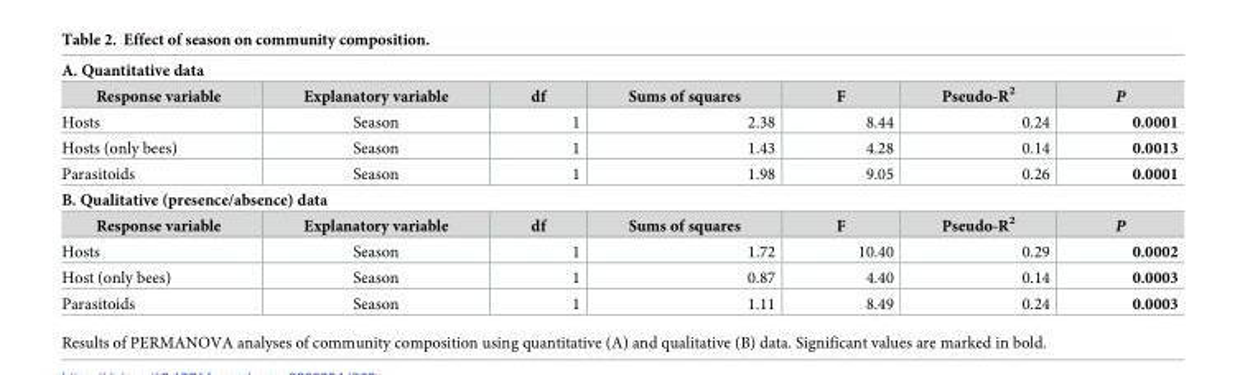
<table><tbody><tr><td colspan="7">A. Quantitative data</td></tr><tr><td>Response variable</td><td>Explanatory variable</td><td>df</td><td>Sums of squares</td><td>F</td><td>Pseudo-R<sup>2</sup></td><td>P</td></tr><tr><td>Hosts</td><td>Season</td><td>1</td><td>2.38</td><td>8.44</td><td>0.24</td><td>0.0001</td></tr><tr><td>Hosts (only bees)</td><td>Season</td><td>1</td><td>1.43</td><td>4.28</td><td>0.14</td><td>0.0013</td></tr><tr><td>Parasitoids</td><td>Season</td><td>1</td><td>1.98</td><td>9.05</td><td>0.26</td><td>0.0001</td></tr><tr><td colspan="7">B. Qualitative (presence/absence) data</td></tr><tr><td>Response variable</td><td>Explanatory variable</td><td>df</td><td>Sums of squares</td><td>F</td><td>Pseudo-R<sup>2</sup></td><td>P</td></tr><tr><td>Hosts</td><td>Season</td><td>1</td><td>1.72</td><td>10.40</td><td>0.29</td><td>0.0002</td></tr><tr><td>Host (only bees)</td><td>Season</td><td>1</td><td>0.87</td><td>4.40</td><td>0.14</td><td>0.0003</td></tr><tr><td>Parasitoids</td><td>Season</td><td>1</td><td>1.11</td><td>8.49</td><td>0.24</td><td>0.0003</td></tr></tbody></table>